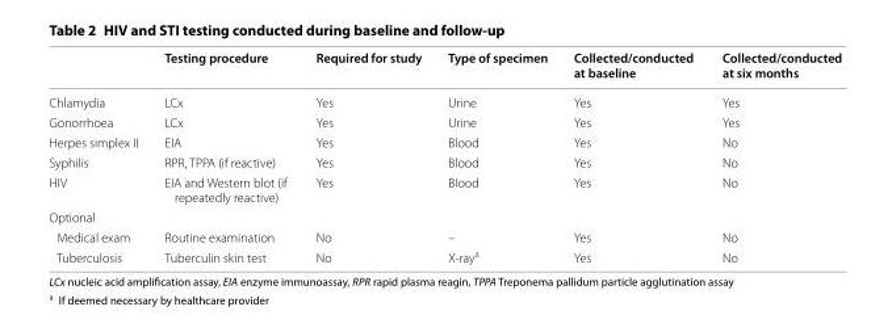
<table><thead><tr><td></td><td>Testing procedure</td><td>Required for study</td><td>Type of specimen</td><td>Collected/conducted at baseline</td><td>Collected/conducted at six months</td></tr></thead><tbody><tr><td>Chlamydia</td><td>LCx</td><td>Yes</td><td>Urine</td><td>Yes</td><td>Yes</td></tr><tr><td>Gonorrhoea</td><td>LCx</td><td>Yes</td><td>Urine</td><td>Yes</td><td>Yes</td></tr><tr><td>Herpes simplex II</td><td>EIA</td><td>Yes</td><td>Blood</td><td>Yes</td><td>No</td></tr><tr><td>Syphilis</td><td>RPR, TPPA (if reactive)</td><td>Yes</td><td>Blood</td><td>Yes</td><td>No</td></tr><tr><td>HIV</td><td>EIA and Western blot (if repeatedly reactive)</td><td>Yes</td><td>Blood</td><td>Yes</td><td>No</td></tr><tr><td colspan="6">Optional</td></tr><tr><td>Medical exam</td><td>Routine examination</td><td>No</td><td>–</td><td>Yes</td><td>No</td></tr><tr><td>Tuberculosis</td><td>Tuberculin skin test</td><td>No</td><td>X-ray<sup>a</sup></td><td>Yes</td><td>No</td></tr></tbody></table>